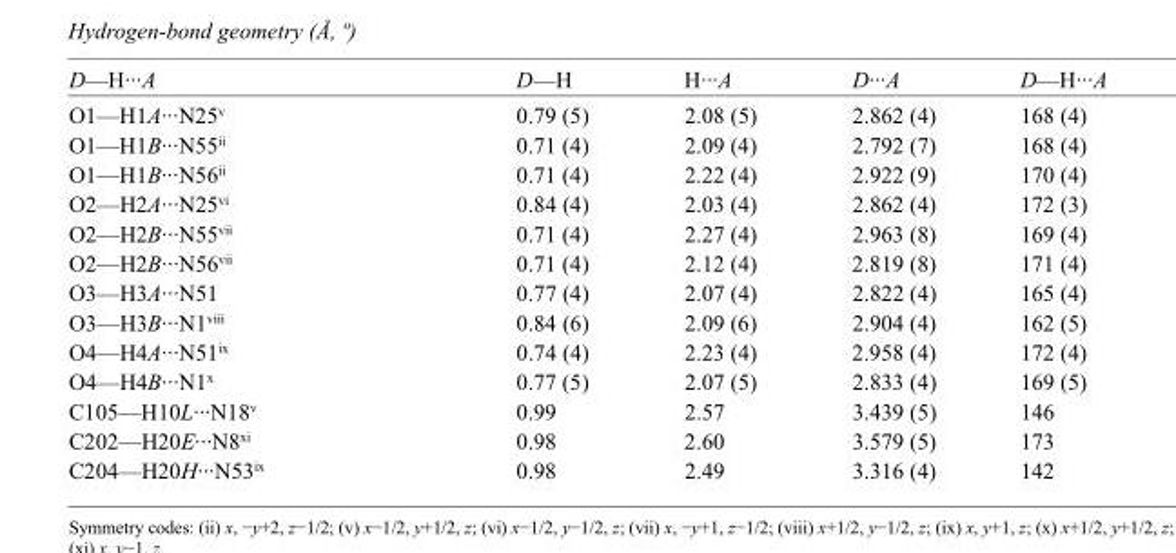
<table><tbody><tr><td>D—H···A</td><td>D—H</td><td>H···A</td><td>D···A</td><td>D—H···A</td></tr><tr><td>O1—H1A···N25<sup>v</sup></td><td>0.79 (5)</td><td>2.08 (5)</td><td>2.862 (4)</td><td>168 (4)</td></tr><tr><td>O1—H1B···N55<sup>ii</sup></td><td>0.71 (4)</td><td>2.09 (4)</td><td>2.792 (7)</td><td>168 (4)</td></tr><tr><td>O1—H1B···N56<sup>ii</sup></td><td>0.71 (4)</td><td>2.22 (4)</td><td>2.922 (9)</td><td>170 (4)</td></tr><tr><td>O2—H2A···N25<sup>vi</sup></td><td>0.84 (4)</td><td>2.03 (4)</td><td>2.862 (4)</td><td>172 (3)</td></tr><tr><td>O2—H2B···N55<sup>vii</sup></td><td>0.71 (4)</td><td>2.27 (4)</td><td>2.963 (8)</td><td>169 (4)</td></tr><tr><td>O2—H2B···N56<sup>vii</sup></td><td>0.71 (4)</td><td>2.12 (4)</td><td>2.819 (8)</td><td>171 (4)</td></tr><tr><td>O3—H3A···N51</td><td>0.77 (4)</td><td>2.07 (4)</td><td>2.822 (4)</td><td>165 (4)</td></tr><tr><td>O3—H3B···N1<sup>viii</sup></td><td>0.84 (6)</td><td>2.09 (6)</td><td>2.904 (4)</td><td>162 (5)</td></tr><tr><td>O4—H4A···N51<sup>ix</sup></td><td>0.74 (4)</td><td>2.23 (4)</td><td>2.958 (4)</td><td>172 (4)</td></tr><tr><td>O4—H4B···N1<sup>x</sup></td><td>0.77 (5)</td><td>2.07 (5)</td><td>2.833 (4)</td><td>169 (5)</td></tr><tr><td>C105—H10L···N18<sup>v</sup></td><td>0.99</td><td>2.57</td><td>3.439 (5)</td><td>146</td></tr><tr><td>C202—H20E···N8<sup>xi</sup></td><td>0.98</td><td>2.60</td><td>3.579 (5)</td><td>173</td></tr><tr><td>C204—H20H···N53<sup>ix</sup></td><td>0.98</td><td>2.49</td><td>3.316 (4)</td><td>142</td></tr></tbody></table>